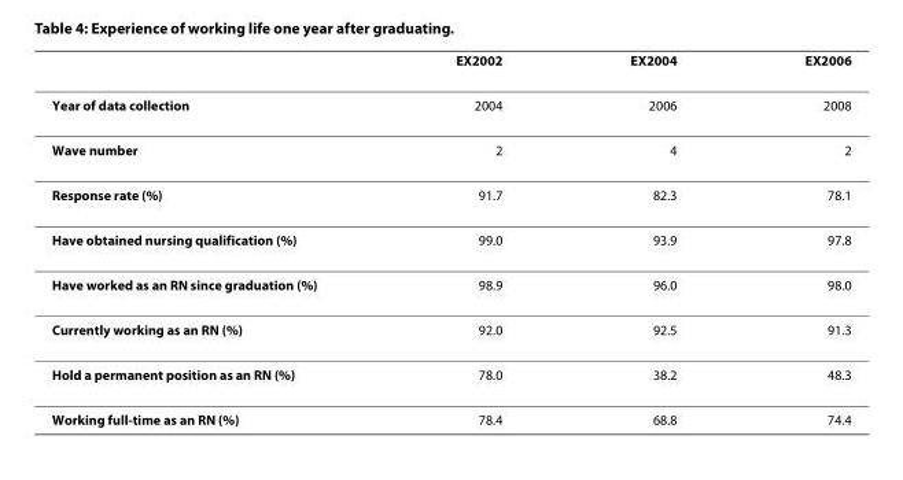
<table><thead><tr><td></td><td>EX2002</td><td>EX2004</td><td>EX2006</td></tr></thead><tbody><tr><td>Year of data collection</td><td>2004</td><td>2006</td><td>2008</td></tr><tr><td>Wave number</td><td>2</td><td>4</td><td>2</td></tr><tr><td>Response rate (%)</td><td>91.7</td><td>82.3</td><td>78.1</td></tr><tr><td>Have obtained nursing qualification (%)</td><td>99.0</td><td>93.9</td><td>97.8</td></tr><tr><td>Have worked as an RN since graduation (%)</td><td>98.9</td><td>96.0</td><td>98.0</td></tr><tr><td>Currently working as an RN (%)</td><td>92.0</td><td>92.5</td><td>91.3</td></tr><tr><td>Hold a permanent position as an RN (%)</td><td>78.0</td><td>38.2</td><td>48.3</td></tr><tr><td>Working full-time as an RN (%)</td><td>78.4</td><td>68.8</td><td>74.4</td></tr></tbody></table>